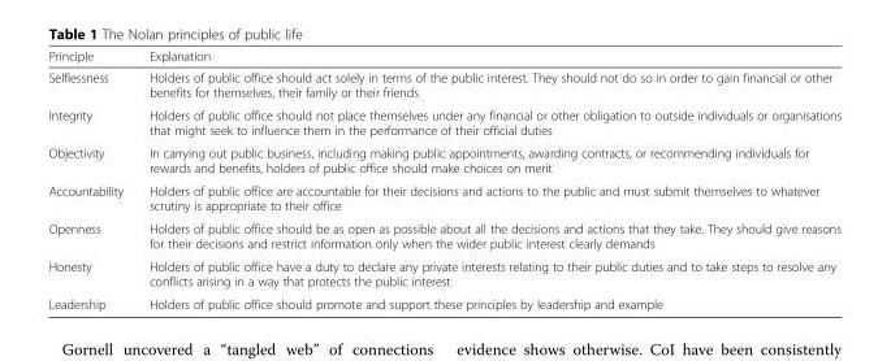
<table><thead><tr><td>Principle</td><td>Explanation</td></tr></thead><tbody><tr><td>Selflessness</td><td>Holders of public office should act solely in terms of the public interest. They should not do so in order to gain financial or other benefits for themselves, their family or their friends</td></tr><tr><td>Integrity</td><td>Holders of public office should not place themselves under any financial or other obligation to outside individuals or organisations that might seek to influence them in the performance of their official duties</td></tr><tr><td>Objectivity</td><td>In carrying out public business, including making public appointments, awarding contracts, or recommending individuals for rewards and benefits, holders of public office should make choices on merit</td></tr><tr><td>Accountability</td><td>Holders of public office are accountable for their decisions and actions to the public and must submit themselves to whatever scrutiny is appropriate to their office</td></tr><tr><td>Openness</td><td>Holders of public office should be as open as possible about all the decisions and actions that they take. They should give reasons for their decisions and restrict information only when the wider public interest clearly demands</td></tr><tr><td>Honesty</td><td>Holders of public office have a duty to declare any private interests relating to their public duties and to take steps to resolve any conflicts arising in a way that protects the public interest</td></tr><tr><td>Leadership</td><td>Holders of public office should promote and support these principles by leadership and example</td></tr></tbody></table>